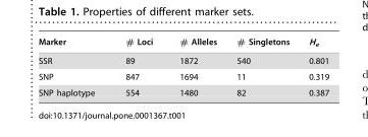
<table><thead><tr><td>Marker</td><td># Loci</td><td># Alleles</td><td># Singletons</td><td>H<sub>e</sub></td></tr></thead><tbody><tr><td>SSR</td><td>89</td><td>1872</td><td>540</td><td>0.801</td></tr><tr><td>SNP</td><td>847</td><td>1694</td><td>11</td><td>0.319</td></tr><tr><td>SNP haplotype</td><td>554</td><td>1480</td><td>82</td><td>0.387</td></tr></tbody></table>